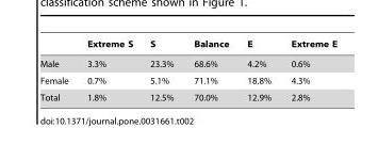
<table><thead><tr><td></td><td>Extreme S</td><td>S</td><td>Balance</td><td>E</td><td>Extreme E</td></tr></thead><tbody><tr><td>Male</td><td>3.3%</td><td>23.3%</td><td>68.6%</td><td>4.2%</td><td>0.6%</td></tr><tr><td>Female</td><td>0.7%</td><td>5.1%</td><td>71.1%</td><td>18.8%</td><td>4.3%</td></tr><tr><td>Total</td><td>1.8%</td><td>12.5%</td><td>70.0%</td><td>12.9%</td><td>2.8%</td></tr></tbody></table>